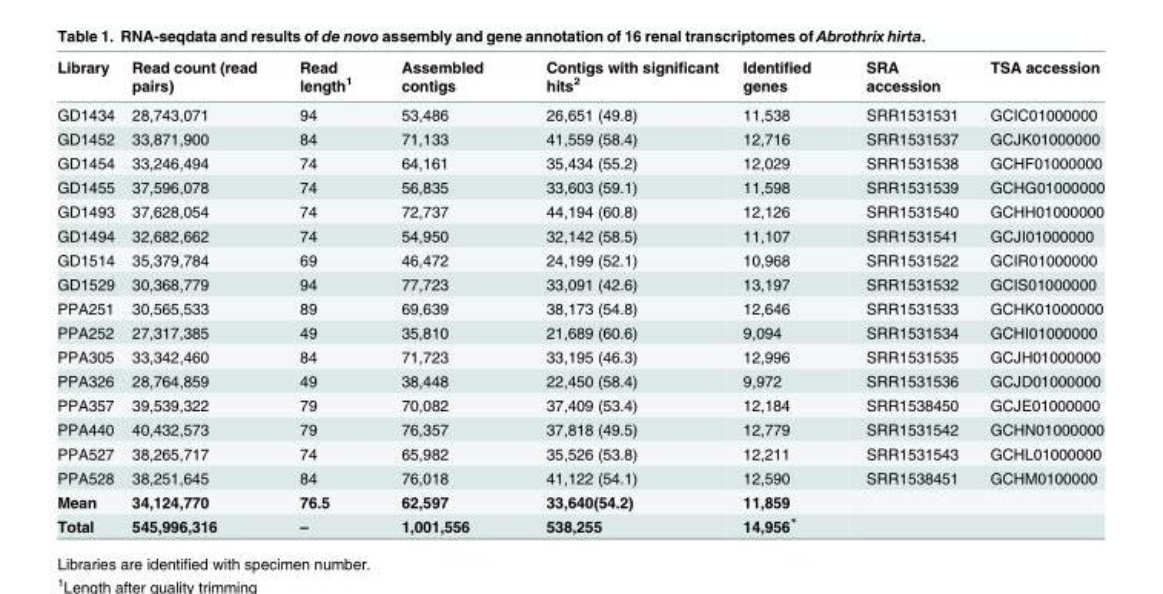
<table><thead><tr><td>Library</td><td>Read count (read pairs)</td><td>Read length<sup>1</sup></td><td>Assembled contigs</td><td>Contigs with significant hits<sup>2</sup></td><td>Identified genes</td><td>SRA accession</td><td>TSA accession</td></tr></thead><tbody><tr><td>GD1434</td><td>28,743,071</td><td>94</td><td>53,486</td><td>26,651 (49.8)</td><td>11,538</td><td>SRR1531531</td><td>GCIC01000000</td></tr><tr><td>GD1452</td><td>33,871,900</td><td>84</td><td>71,133</td><td>41,559 (58.4)</td><td>12,716</td><td>SRR1531537</td><td>GCJK01000000</td></tr><tr><td>GD1454</td><td>33,246,494</td><td>74</td><td>64,161</td><td>35,434 (55.2)</td><td>12,029</td><td>SRR1531538</td><td>GCHF01000000</td></tr><tr><td>GD1455</td><td>37,596,078</td><td>74</td><td>56,835</td><td>33,603 (59.1)</td><td>11,598</td><td>SRR1531539</td><td>GCHG01000000</td></tr><tr><td>GD1493</td><td>37,628,054</td><td>74</td><td>72,737</td><td>44,194 (60.8)</td><td>12,126</td><td>SRR1531540</td><td>GCHH01000000</td></tr><tr><td>GD1494</td><td>32,682,662</td><td>74</td><td>54,950</td><td>32,142 (58.5)</td><td>11,107</td><td>SRR1531541</td><td>GCJI01000000</td></tr><tr><td>GD1514</td><td>35,379,784</td><td>69</td><td>46,472</td><td>24,199 (52.1)</td><td>10,968</td><td>SRR1531522</td><td>GCIR01000000</td></tr><tr><td>GD1529</td><td>30,368,779</td><td>94</td><td>77,723</td><td>33,091 (42.6)</td><td>13,197</td><td>SRR1531532</td><td>GCIS01000000</td></tr><tr><td>PPA251</td><td>30,565,533</td><td>89</td><td>69,639</td><td>38,173 (54.8)</td><td>12,646</td><td>SRR1531533</td><td>GCHK01000000</td></tr><tr><td>PPA252</td><td>27,317,385</td><td>49</td><td>35,810</td><td>21,689 (60.6)</td><td>9,094</td><td>SRR1531534</td><td>GCHI01000000</td></tr><tr><td>PPA305</td><td>33,342,460</td><td>84</td><td>71,723</td><td>33,195 (46.3)</td><td>12,996</td><td>SRR1531535</td><td>GCJH01000000</td></tr><tr><td>PPA326</td><td>28,764,859</td><td>49</td><td>38,448</td><td>22,450 (58.4)</td><td>9,972</td><td>SRR1531536</td><td>GCJD01000000</td></tr><tr><td>PPA357</td><td>39,539,322</td><td>79</td><td>70,082</td><td>37,409 (53.4)</td><td>12,184</td><td>SRR1538450</td><td>GCJE01000000</td></tr><tr><td>PPA440</td><td>40,432,573</td><td>79</td><td>76,357</td><td>37,818 (49.5)</td><td>12,779</td><td>SRR1531542</td><td>GCHN01000000</td></tr><tr><td>PPA527</td><td>38,265,717</td><td>74</td><td>65,982</td><td>35,526 (53.8)</td><td>12,211</td><td>SRR1531543</td><td>GCHL01000000</td></tr><tr><td>PPA528</td><td>38,251,645</td><td>84</td><td>76,018</td><td>41,122 (54.1)</td><td>12,590</td><td>SRR1538451</td><td>GCHM0100000</td></tr><tr><td>Mean</td><td>34,124,770</td><td>76.5</td><td>62,597</td><td>33,640(54.2)</td><td>11,859</td><td></td><td></td></tr><tr><td>Total</td><td>545,996,316</td><td>–</td><td>1,001,556</td><td>538,255</td><td>14,956*</td><td></td><td></td></tr></tbody></table>